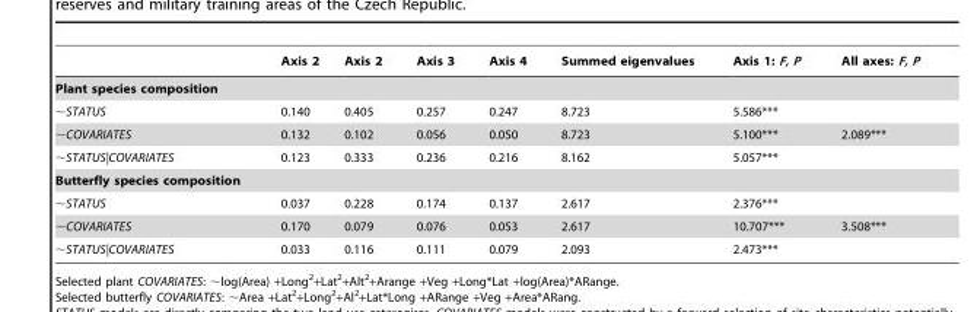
<table><thead><tr><td></td><td>Axis 2</td><td>Axis 2</td><td>Axis 3</td><td>Axis 4</td><td>Summed eigenvalues</td><td>Axis 1: F, P</td><td>All axes: F, P</td></tr></thead><tbody><tr><td colspan="8">Plant species composition</td></tr><tr><td>∼STATUS</td><td>0.140</td><td>0.405</td><td>0.257</td><td>0.247</td><td>8.723</td><td>5.586***</td><td></td></tr><tr><td>∼COVARIATES</td><td>0.132</td><td>0.102</td><td>0.056</td><td>0.050</td><td>8.723</td><td>5.100***</td><td>2.089***</td></tr><tr><td>∼STATUS|COVARIATES</td><td>0.123</td><td>0.333</td><td>0.236</td><td>0.216</td><td>8.162</td><td>5.057***</td><td></td></tr><tr><td colspan="8">Butterfly species composition</td></tr><tr><td>∼STATUS</td><td>0.037</td><td>0.228</td><td>0.174</td><td>0.137</td><td>2.617</td><td>2.376***</td><td></td></tr><tr><td>∼COVARIATES</td><td>0.170</td><td>0.079</td><td>0.076</td><td>0.053</td><td>2.617</td><td>10.707***</td><td>3.508***</td></tr><tr><td>∼STATUS|COVARIATES</td><td>0.033</td><td>0.116</td><td>0.111</td><td>0.079</td><td>2.093</td><td>2.473***</td><td></td></tr></tbody></table>